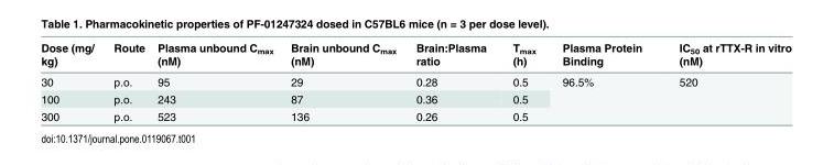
<table><thead><tr><td>Dose (mg/ kg)</td><td>Route</td><td>Plasma unbound C<sub>max</sub> (nM)</td><td>Brain unbound C<sub>max</sub> (nM)</td><td>Brain:Plasma ratio</td><td>T<sub>max</sub> (h)</td><td>Plasma Protein Binding</td><td>IC<sub>50</sub> at rTTX-R in vitro (nM)</td></tr></thead><tbody><tr><td>30</td><td>p.o.</td><td>95</td><td>29</td><td>0.28</td><td>0.5</td><td rowspan="3">96.5%</td><td rowspan="3">520</td></tr><tr><td>100</td><td>p.o.</td><td>243</td><td>87</td><td>0.36</td><td>0.5</td></tr><tr><td>300</td><td>p.o.</td><td>523</td><td>136</td><td>0.26</td><td>0.5</td></tr></tbody></table>